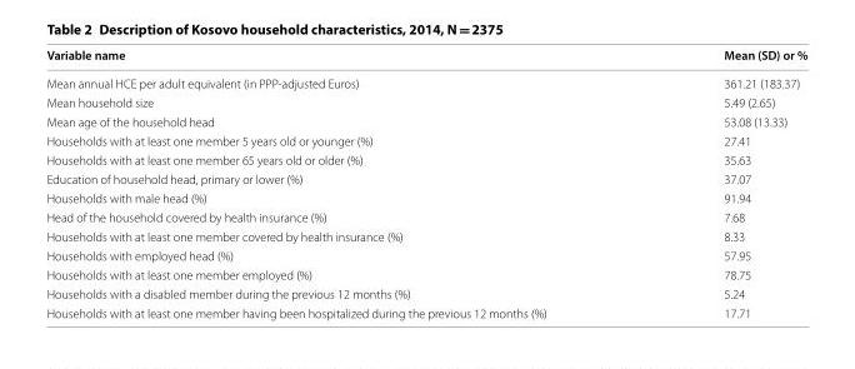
<table><thead><tr><td>Variable name</td><td>Mean (SD) or %</td></tr></thead><tbody><tr><td>Mean annual HCE per adult equivalent (in PPP-adjusted Euros)</td><td>361.21 (183.37)</td></tr><tr><td>Mean household size</td><td>5.49 (2.65)</td></tr><tr><td>Mean age of the household head</td><td>53.08 (13.33)</td></tr><tr><td>Households with at least one member 5 years old or younger (%)</td><td>27.41</td></tr><tr><td>Households with at least one member 65 years old or older (%)</td><td>35.63</td></tr><tr><td>Education of household head, primary or lower (%)</td><td>37.07</td></tr><tr><td>Households with male head (%)</td><td>91.94</td></tr><tr><td>Head of the household covered by health insurance (%)</td><td>7.68</td></tr><tr><td>Households with at least one member covered by health insurance (%)</td><td>8.33</td></tr><tr><td>Households with employed head (%)</td><td>57.95</td></tr><tr><td>Households with at least one member employed (%)</td><td>78.75</td></tr><tr><td>Households with a disabled member during the previous 12 months (%)</td><td>5.24</td></tr><tr><td>Households with at least one member having been hospitalized during the previous 12 months (%)</td><td>17.71</td></tr></tbody></table>